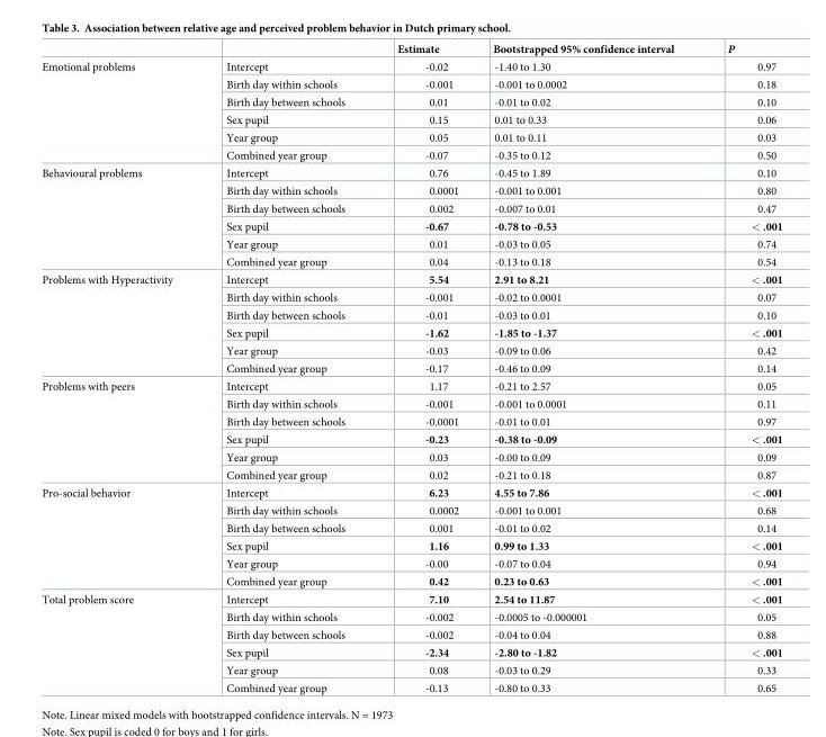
<table><thead><tr><td></td><td></td><td>Estimate</td><td>Bootstrapped 95% confidence interval</td><td>P</td></tr></thead><tbody><tr><td rowspan="6">Emotional problems</td><td>Intercept</td><td>-0.02</td><td>-1.40 to 1.30</td><td>0.97</td></tr><tr><td>Birth day within schools</td><td>-0.001</td><td>-0.001 to 0.0002</td><td>0.18</td></tr><tr><td>Birth day between schools</td><td>0.01</td><td>-0.01 to 0.02</td><td>0.10</td></tr><tr><td>Sex pupil</td><td>0.15</td><td>0.01 to 0.33</td><td>0.06</td></tr><tr><td>Year group</td><td>0.05</td><td>0.01 to 0.11</td><td>0.03</td></tr><tr><td>Combined year group</td><td>-0.07</td><td>-0.35 to 0.12</td><td>0.50</td></tr><tr><td rowspan="6">Behavioural problems</td><td>Intercept</td><td>0.76</td><td>-0.45 to 1.89</td><td>0.10</td></tr><tr><td>Birth day within schools</td><td>0.0001</td><td>-0.001 to 0.001</td><td>0.80</td></tr><tr><td>Birth day between schools</td><td>0.002</td><td>-0.007 to 0.01</td><td>0.47</td></tr><tr><td>Sex pupil</td><td>-0.67</td><td>-0.78 to -0.53</td><td>&lt; .001</td></tr><tr><td>Year group</td><td>0.01</td><td>-0.03 to 0.05</td><td>0.74</td></tr><tr><td>Combined year group</td><td>0.04</td><td>-0.13 to 0.18</td><td>0.54</td></tr><tr><td rowspan="6">Problems with Hyperactivity</td><td>Intercept</td><td>5.54</td><td>2.91 to 8.21</td><td>&lt; .001</td></tr><tr><td>Birth day within schools</td><td>-0.001</td><td>-0.02 to 0.0001</td><td>0.07</td></tr><tr><td>Birth day between schools</td><td>-0.01</td><td>-0.03 to 0.01</td><td>0.10</td></tr><tr><td>Sex pupil</td><td>-1.62</td><td>-1.85 to -1.37</td><td>&lt; .001</td></tr><tr><td>Year group</td><td>-0.03</td><td>-0.09 to 0.06</td><td>0.42</td></tr><tr><td>Combined year group</td><td>-0.17</td><td>-0.46 to 0.09</td><td>0.14</td></tr><tr><td rowspan="6">Problems with peers</td><td>Intercept</td><td>1.17</td><td>-0.21 to 2.57</td><td>0.05</td></tr><tr><td>Birth day within schools</td><td>-0.001</td><td>-0.001 to 0.0001</td><td>0.11</td></tr><tr><td>Birth day between schools</td><td>-0.0001</td><td>-0.01 to 0.01</td><td>0.97</td></tr><tr><td>Sex pupil</td><td>-0.23</td><td>-0.38 to -0.09</td><td>&lt; .001</td></tr><tr><td>Year group</td><td>0.03</td><td>-0.00 to 0.09</td><td>0.09</td></tr><tr><td>Combined year group</td><td>0.02</td><td>-0.21 to 0.18</td><td>0.87</td></tr><tr><td rowspan="6">Pro-social behavior</td><td>Intercept</td><td>6.23</td><td>4.55 to 7.86</td><td>&lt; .001</td></tr><tr><td>Birth day within schools</td><td>0.0002</td><td>-0.001 to 0.001</td><td>0.68</td></tr><tr><td>Birth day between schools</td><td>0.001</td><td>-0.01 to 0.02</td><td>0.14</td></tr><tr><td>Sex pupil</td><td>1.16</td><td>0.99 to 1.33</td><td>&lt; .001</td></tr><tr><td>Year group</td><td>-0.00</td><td>-0.07 to 0.04</td><td>0.94</td></tr><tr><td>Combined year group</td><td>0.42</td><td>0.23 to 0.63</td><td>&lt; .001</td></tr><tr><td rowspan="6">Total problem score</td><td>Intercept</td><td>7.10</td><td>2.54 to 11.87</td><td>&lt; .001</td></tr><tr><td>Birth day within schools</td><td>-0.002</td><td>-0.0005 to -0.000001</td><td>0.05</td></tr><tr><td>Birth day between schools</td><td>-0.002</td><td>-0.04 to 0.04</td><td>0.88</td></tr><tr><td>Sex pupil</td><td>-2.34</td><td>-2.80 to -1.82</td><td>&lt; .001</td></tr><tr><td>Year group</td><td>0.08</td><td>-0.03 to 0.29</td><td>0.33</td></tr><tr><td>Combined year group</td><td>-0.13</td><td>-0.80 to 0.33</td><td>0.65</td></tr></tbody></table>